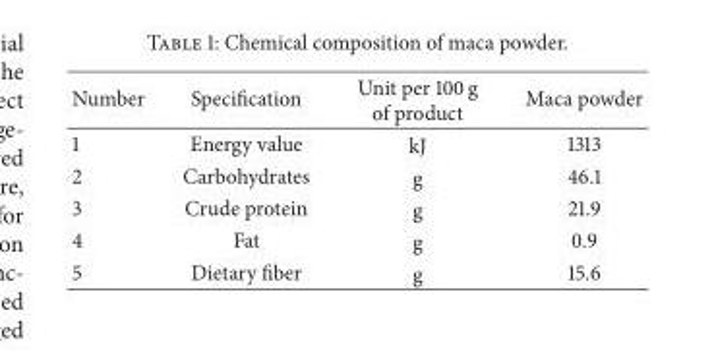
<table><thead><tr><td>Number</td><td>Specification</td><td>Unit per 100 g of product</td><td>Maca powder</td></tr></thead><tbody><tr><td>1</td><td>Energy value</td><td>kJ</td><td>1313</td></tr><tr><td>2</td><td>Carbohydrates</td><td>g</td><td>46.1</td></tr><tr><td>3</td><td>Crude protein</td><td>g</td><td>21.9</td></tr><tr><td>4</td><td>Fat</td><td>g</td><td>0.9</td></tr><tr><td>5</td><td>Dietary fiber</td><td>g</td><td>15.6</td></tr></tbody></table>